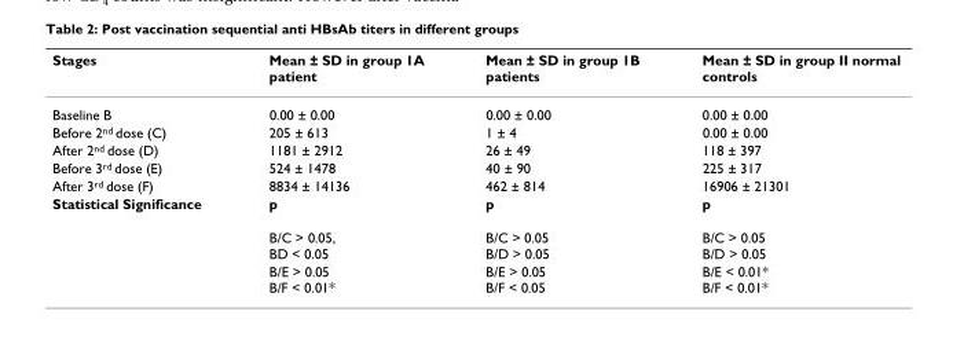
<table><thead><tr><td>Stages</td><td>Mean ± SD in group 1A patient</td><td>Mean ± SD in group 1B patients</td><td>Mean ± SD in group II normal controls</td></tr></thead><tbody><tr><td>Baseline B</td><td>0.00 ± 0.00</td><td>0.00 ± 0.00</td><td>0.00 ± 0.00</td></tr><tr><td>Before 2<sup>nd</sup> dose (C)</td><td>205 ± 613</td><td>1 ± 4</td><td>0.00 ± 0.00</td></tr><tr><td>After 2<sup>nd</sup> dose (D)</td><td>1181 ± 2912</td><td>26 ± 49</td><td>118 ± 397</td></tr><tr><td>Before 3<sup>rd</sup> dose (E)</td><td>524 ± 1478</td><td>40 ± 90</td><td>225 ± 317</td></tr><tr><td>After 3<sup>rd</sup> dose (F)</td><td>8834 ± 14136</td><td>462 ± 814</td><td>16906 ± 21301</td></tr><tr><td rowspan="3">Statistical Significance</td><td>p</td><td>p</td><td>p</td></tr><tr><td>B/C &gt; 0.05, BD &lt; 0.05</td><td>B/C &gt; 0.05 B/D &gt; 0.05</td><td>B/C &gt; 0.05 B/D &gt; 0.05</td></tr><tr><td>B/E &gt; 0.05 B/F &lt; 0.01*</td><td>B/E &gt; 0.05 B/F &lt; 0.05</td><td>B/E &lt; 0.01* B/F &lt; 0.01*</td></tr></tbody></table>